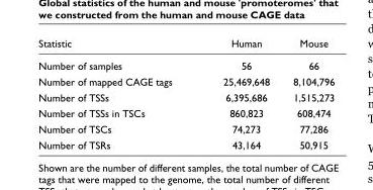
<table><thead><tr><td>Statistic</td><td>Human</td><td>Mouse</td></tr></thead><tbody><tr><td>Number of samples</td><td>56</td><td>66</td></tr><tr><td>Number of mapped CAGE tags</td><td>25,469,648</td><td>8,104,796</td></tr><tr><td>Number of TSSs</td><td>6,395,686</td><td>1,515,273</td></tr><tr><td>Number of TSSs in TSCs</td><td>860,823</td><td>608,474</td></tr><tr><td>Number of TSCs</td><td>74,273</td><td>77,286</td></tr><tr><td>Number of TSRs</td><td>43,164</td><td>50,915</td></tr></tbody></table>